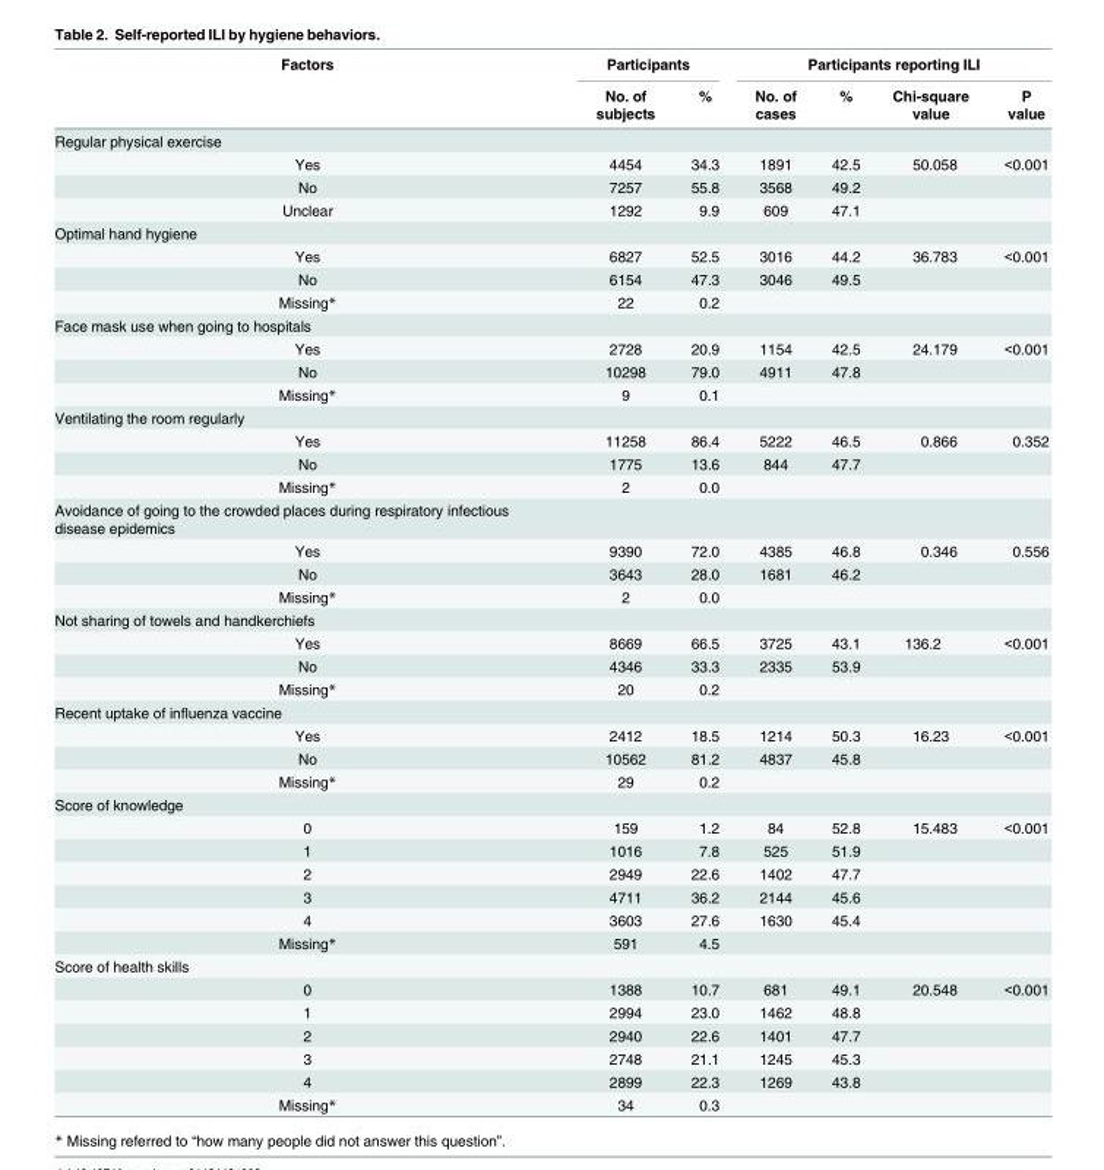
<table><thead><tr><td rowspan="2">Factors</td><td colspan="2">Participants</td><td colspan="4">Participants reporting ILI</td></tr><tr><td>No. of subjects</td><td>%</td><td>No. of cases</td><td>%</td><td>Chi-square value</td><td>P value</td></tr></thead><tbody><tr><td colspan="7">Regular physical exercise</td></tr><tr><td>Yes</td><td>4454</td><td>34.3</td><td>1891</td><td>42.5</td><td>50.058</td><td>&lt;0.001</td></tr><tr><td>No</td><td>7257</td><td>55.8</td><td>3568</td><td>49.2</td><td></td><td></td></tr><tr><td>Unclear</td><td>1292</td><td>9.9</td><td>609</td><td>47.1</td><td></td><td></td></tr><tr><td colspan="7">Optimal hand hygiene</td></tr><tr><td>Yes</td><td>6827</td><td>52.5</td><td>3016</td><td>44.2</td><td>36.783</td><td>&lt;0.001</td></tr><tr><td>No</td><td>6154</td><td>47.3</td><td>3046</td><td>49.5</td><td></td><td></td></tr><tr><td>Missing*</td><td>22</td><td>0.2</td><td></td><td></td><td></td><td></td></tr><tr><td colspan="7">Face mask use when going to hospitals</td></tr><tr><td>Yes</td><td>2728</td><td>20.9</td><td>1154</td><td>42.5</td><td>24.179</td><td>&lt;0.001</td></tr><tr><td>No</td><td>10298</td><td>79.0</td><td>4911</td><td>47.8</td><td></td><td></td></tr><tr><td>Missing*</td><td>9</td><td>0.1</td><td></td><td></td><td></td><td></td></tr><tr><td colspan="7">Ventilating the room regularly</td></tr><tr><td>Yes</td><td>11258</td><td>86.4</td><td>5222</td><td>46.5</td><td>0.866</td><td>0.352</td></tr><tr><td>No</td><td>1775</td><td>13.6</td><td>844</td><td>47.7</td><td></td><td></td></tr><tr><td>Missing*</td><td>2</td><td>0.0</td><td></td><td></td><td></td><td></td></tr><tr><td colspan="7">Avoidance of going to the crowded places during respiratory infectious disease epidemics</td></tr><tr><td>Yes</td><td>9390</td><td>72.0</td><td>4385</td><td>46.8</td><td>0.346</td><td>0.556</td></tr><tr><td>No</td><td>3643</td><td>28.0</td><td>1681</td><td>46.2</td><td></td><td></td></tr><tr><td>Missing*</td><td>2</td><td>0.0</td><td></td><td></td><td></td><td></td></tr><tr><td colspan="7">Not sharing of towels and handkerchiefs</td></tr><tr><td>Yes</td><td>8669</td><td>66.5</td><td>3725</td><td>43.1</td><td>136.2</td><td>&lt;0.001</td></tr><tr><td>No</td><td>4346</td><td>33.3</td><td>2335</td><td>53.9</td><td></td><td></td></tr><tr><td>Missing*</td><td>20</td><td>0.2</td><td></td><td></td><td></td><td></td></tr><tr><td colspan="7">Recent uptake of influenza vaccine</td></tr><tr><td>Yes</td><td>2412</td><td>18.5</td><td>1214</td><td>50.3</td><td>16.23</td><td>&lt;0.001</td></tr><tr><td>No</td><td>10562</td><td>81.2</td><td>4837</td><td>45.8</td><td></td><td></td></tr><tr><td>Missing*</td><td>29</td><td>0.2</td><td></td><td></td><td></td><td></td></tr><tr><td colspan="7">Score of knowledge</td></tr><tr><td>0</td><td>159</td><td>1.2</td><td>84</td><td>52.8</td><td>15.483</td><td>&lt;0.001</td></tr><tr><td>1</td><td>1016</td><td>7.8</td><td>525</td><td>51.9</td><td></td><td></td></tr><tr><td>2</td><td>2949</td><td>22.6</td><td>1402</td><td>47.7</td><td></td><td></td></tr><tr><td>3</td><td>4711</td><td>36.2</td><td>2144</td><td>45.6</td><td></td><td></td></tr><tr><td>4</td><td>3603</td><td>27.6</td><td>1630</td><td>45.4</td><td></td><td></td></tr><tr><td>Missing*</td><td>591</td><td>4.5</td><td></td><td></td><td></td><td></td></tr><tr><td colspan="7">Score of health skills</td></tr><tr><td>0</td><td>1388</td><td>10.7</td><td>681</td><td>49.1</td><td>20.548</td><td>&lt;0.001</td></tr><tr><td>1</td><td>2994</td><td>23.0</td><td>1462</td><td>48.8</td><td></td><td></td></tr><tr><td>2</td><td>2940</td><td>22.6</td><td>1401</td><td>47.7</td><td></td><td></td></tr><tr><td>3</td><td>2748</td><td>21.1</td><td>1245</td><td>45.3</td><td></td><td></td></tr><tr><td>4</td><td>2899</td><td>22.3</td><td>1269</td><td>43.8</td><td></td><td></td></tr><tr><td>Missing*</td><td>34</td><td>0.3</td><td></td><td></td><td></td><td></td></tr></tbody></table>